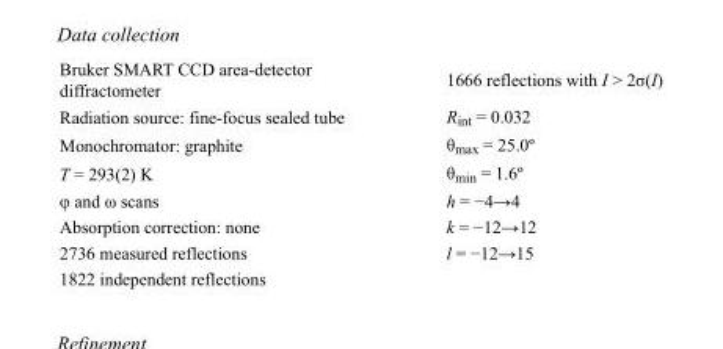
<table><tbody><tr><td>Bruker SMART CCD area-detector diffractometer</td><td>1666 reflections with I &gt; 2σ(I)</td></tr><tr><td>Radiation source: fine-focus sealed tube</td><td>R<sub>int</sub> = 0.032</td></tr><tr><td>Monochromator: graphite</td><td>θ<sub>max</sub> = 25.0º</td></tr><tr><td>T = 293(2) K</td><td>θ<sub>min</sub> = 1.6º</td></tr><tr><td>φ and ω scans</td><td>h = −4→4</td></tr><tr><td>Absorption correction: none</td><td>k = −12→12</td></tr><tr><td>2736 measured reflections</td><td>l = −12→15</td></tr><tr><td>1822 independent reflections</td><td></td></tr></tbody></table>